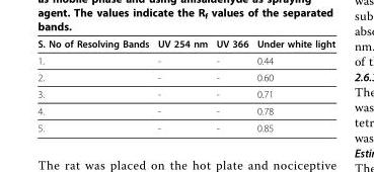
<table><thead><tr><td>S. No of Resolving Bands</td><td>UV 254 nm</td><td>UV 366</td><td>Under white light</td></tr></thead><tbody><tr><td>1.</td><td>-</td><td>-</td><td>0.44</td></tr><tr><td>2.</td><td>-</td><td>-</td><td>0.60</td></tr><tr><td>3.</td><td>-</td><td>-</td><td>0.71</td></tr><tr><td>4.</td><td>-</td><td>-</td><td>0.78</td></tr><tr><td>5.</td><td>-</td><td>-</td><td>0.85</td></tr></tbody></table>